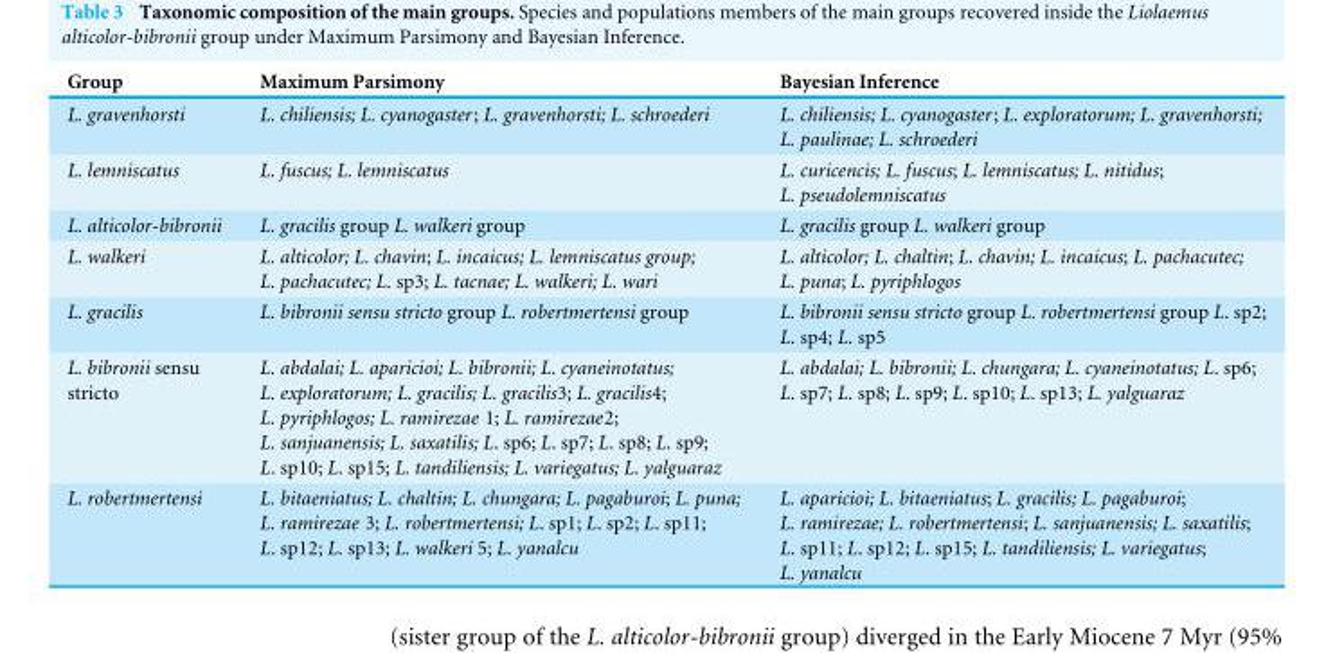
<table><thead><tr><td>Group</td><td>Maximum Parsimony</td><td>Bayesian Inference</td></tr></thead><tbody><tr><td>L. gravenhorsti</td><td>L. chiliensis; L. cyanogaster; L. gravenhorsti; L. schroederi</td><td>L. chiliensis; L. cyanogaster; L. exploratorum; L. gravenhorsti; L. paulinae; L. schroederi</td></tr><tr><td>L. lemniscatus</td><td>L. fuscus; L. lemniscatus</td><td>L. curicencis; L. fuscus; L. lemniscatus; L. nitidus; L. pseudolemniscatus</td></tr><tr><td>L. alticolor-bibronii</td><td>L. gracilis group L. walkeri group</td><td>L. gracilis group L. walkeri group</td></tr><tr><td>L. walkeri</td><td>L. alticolor; L. chavin; L. incaicus; L. lemniscatus group; L. pachacutec; L. sp3; L. tacnae; L. walkeri; L. wari</td><td>L. alticolor; L. chaltin; L. chavin; L. incaicus; L. pachacutec; L. puna; L. pyriphlogos</td></tr><tr><td>L. gracilis</td><td>L. bibronii sensu stricto group L. robertmertensi group</td><td>L. bibronii sensu stricto group L. robertmertensi group L. sp2; L. sp4; L. sp5</td></tr><tr><td>L. bibronii sensu stricto</td><td>L. abdalai; L. aparicioi; L. bibronii; L. cyaneinotatus; L. exploratorum; L. gracilis; L. gracilis3; L. gracilis4; L. pyriphlogos; L. ramirezae 1; L. ramirezae2; L. sanjuanensis; L. saxatilis; L. sp6; L. sp7; L. sp8; L. sp9; L. sp10; L. sp15; L. tandiliensis; L. variegatus; L. yalguaraz</td><td>L. abdalai; L. bibronii; L. chungara; L. cyaneinotatus; L. sp6; L. sp7; L. sp8; L. sp9; L. sp10; L. sp13; L. yalguaraz</td></tr><tr><td>L. robertmertensi</td><td>L. bitaeniatus; L. chaltin; L. chungara; L. pagaburoi; L. puna; L. ramirezae 3; L. robertmertensi; L. sp1; L. sp2; L. sp11; L. sp12; L. sp13; L. walkeri 5; L. yanalcu</td><td>L. aparicioi; L. bitaeniatus; L. gracilis; L. pagaburoi; L. ramirezae; L. robertmertensi; L. sanjuanensis; L. saxatilis; L. sp11; L. sp12; L. sp15; L. tandiliensis; L. variegatus; L. yanalcu</td></tr></tbody></table>